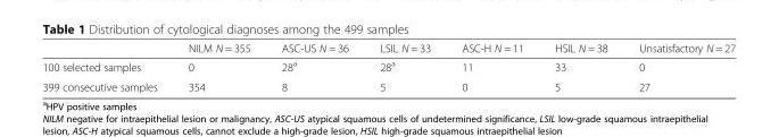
<table><thead><tr><td></td><td>NILM N = 355</td><td>ASC-US N = 36</td><td>LSIL N = 33</td><td>ASC-H N = 11</td><td>HSIL N = 38</td><td>Unsatisfactory N = 27</td></tr></thead><tbody><tr><td>100 selected samples</td><td>0</td><td>28<sup>a</sup></td><td>28<sup>a</sup></td><td>11</td><td>33</td><td>0</td></tr><tr><td>399 consecutive samples</td><td>354</td><td>8</td><td>5</td><td>0</td><td>5</td><td>27</td></tr></tbody></table>